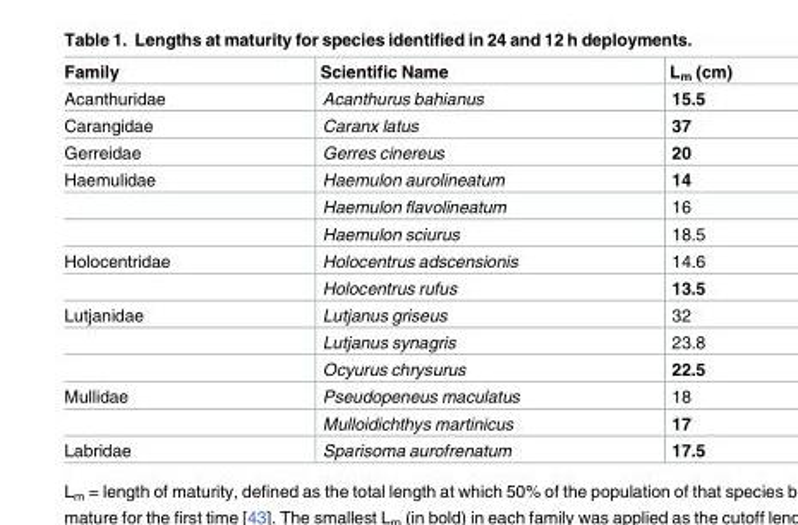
<table><thead><tr><td>Family</td><td>Scientific Name</td><td>L<sub>m</sub> (cm)</td></tr></thead><tbody><tr><td>Acanthuridae</td><td>Acanthurus bahianus</td><td>15.5</td></tr><tr><td>Carangidae</td><td>Caranx latus</td><td>37</td></tr><tr><td>Gerreidae</td><td>Gerres cinereus</td><td>20</td></tr><tr><td rowspan="3">Haemulidae</td><td>Haemulon aurolineatum</td><td>14</td></tr><tr><td>Haemulon flavolineatum</td><td>16</td></tr><tr><td>Haemulon sciurus</td><td>18.5</td></tr><tr><td rowspan="2">Holocentridae</td><td>Holocentrus adscensionis</td><td>14.6</td></tr><tr><td>Holocentrus rufus</td><td>13.5</td></tr><tr><td rowspan="3">Lutjanidae</td><td>Lutjanus griseus</td><td>32</td></tr><tr><td>Lutjanus synagris</td><td>23.8</td></tr><tr><td>Ocyurus chrysurus</td><td>22.5</td></tr><tr><td rowspan="2">Mullidae</td><td>Pseudopeneus maculatus</td><td>18</td></tr><tr><td>Mulloidichthys martinicus</td><td>17</td></tr><tr><td>Labridae</td><td>Sparisoma aurofrenatum</td><td>17.5</td></tr></tbody></table>